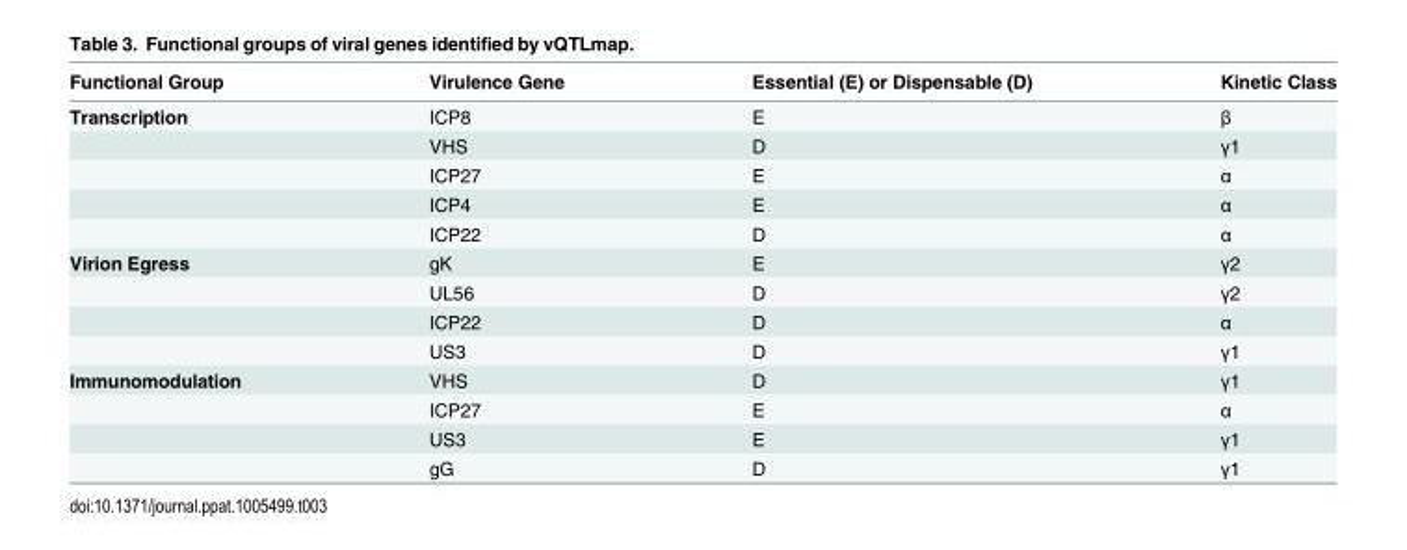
<table><thead><tr><td>Functional Group</td><td>Virulence Gene</td><td>Essential (E) or Dispensable (D)</td><td>Kinetic Class</td></tr></thead><tbody><tr><td rowspan="5">Transcription</td><td>ICP8</td><td>E</td><td>β</td></tr><tr><td>VHS</td><td>D</td><td>γ1</td></tr><tr><td>ICP27</td><td>E</td><td>α</td></tr><tr><td>ICP4</td><td>E</td><td>α</td></tr><tr><td>ICP22</td><td>D</td><td>α</td></tr><tr><td rowspan="4">Virion Egress</td><td>gK</td><td>E</td><td>γ2</td></tr><tr><td>UL56</td><td>D</td><td>γ2</td></tr><tr><td>ICP22</td><td>D</td><td>α</td></tr><tr><td>US3</td><td>D</td><td>γ1</td></tr><tr><td rowspan="4">Immunomodulation</td><td>VHS</td><td>D</td><td>γ1</td></tr><tr><td>ICP27</td><td>E</td><td>α</td></tr><tr><td>US3</td><td>E</td><td>γ1</td></tr><tr><td>gG</td><td>D</td><td>γ1</td></tr></tbody></table>